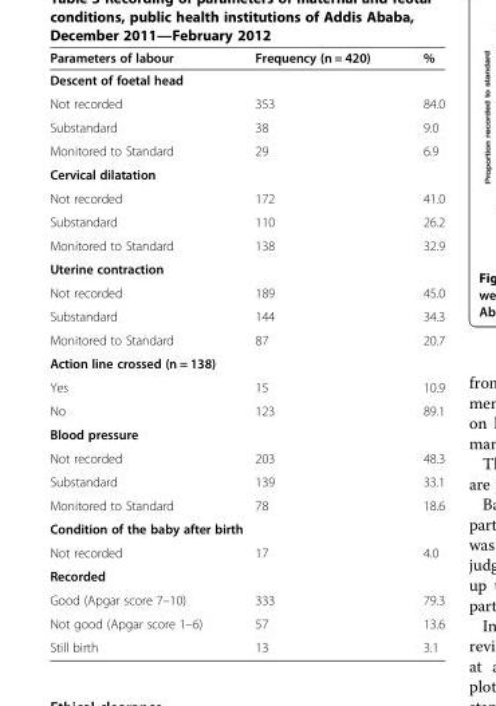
<table><thead><tr><td>Parameters of labour</td><td>Frequency (n = 420)</td><td>%</td></tr></thead><tbody><tr><td colspan="3">Descent of foetal head</td></tr><tr><td>Not recorded</td><td>353</td><td>84.0</td></tr><tr><td>Substandard</td><td>38</td><td>9.0</td></tr><tr><td>Monitored to Standard</td><td>29</td><td>6.9</td></tr><tr><td colspan="3">Cervical dilatation</td></tr><tr><td>Not recorded</td><td>172</td><td>41.0</td></tr><tr><td>Substandard</td><td>110</td><td>26.2</td></tr><tr><td>Monitored to Standard</td><td>138</td><td>32.9</td></tr><tr><td colspan="3">Uterine contraction</td></tr><tr><td>Not recorded</td><td>189</td><td>45.0</td></tr><tr><td>Substandard</td><td>144</td><td>34.3</td></tr><tr><td>Monitored to Standard</td><td>87</td><td>20.7</td></tr><tr><td colspan="3">Action line crossed (n = 138)</td></tr><tr><td>Yes</td><td>15</td><td>10.9</td></tr><tr><td>No</td><td>123</td><td>89.1</td></tr><tr><td colspan="3">Blood pressure</td></tr><tr><td>Not recorded</td><td>203</td><td>48.3</td></tr><tr><td>Substandard</td><td>139</td><td>33.1</td></tr><tr><td>Monitored to Standard</td><td>78</td><td>18.6</td></tr><tr><td colspan="3">Condition of the baby after birth</td></tr><tr><td>Not recorded</td><td>17</td><td>4.0</td></tr><tr><td colspan="3">Recorded</td></tr><tr><td>Good (Apgar score 7–10)</td><td>333</td><td>79.3</td></tr><tr><td>Not good (Apgar score 1–6)</td><td>57</td><td>13.6</td></tr><tr><td>Still birth</td><td>13</td><td>3.1</td></tr></tbody></table>